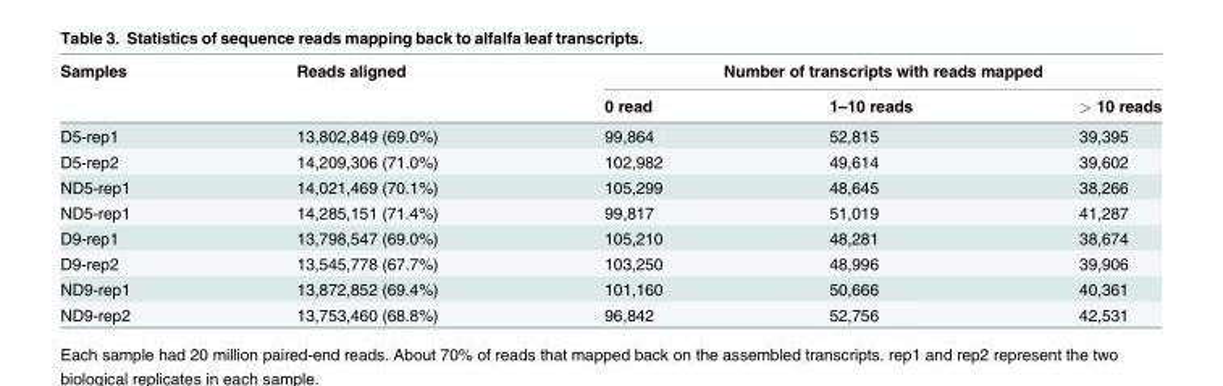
<table><thead><tr><td rowspan="2">Samples</td><td rowspan="2">Reads aligned</td><td colspan="3">Number of transcripts with reads mapped</td></tr><tr><td>0 read</td><td>1–10 reads</td><td>&gt; 10 reads</td></tr></thead><tbody><tr><td>D5-rep1</td><td>13,802,849 (69.0%)</td><td>99,864</td><td>52,815</td><td>39,395</td></tr><tr><td>D5-rep2</td><td>14,209,306 (71.0%)</td><td>102,982</td><td>49,614</td><td>39,602</td></tr><tr><td>ND5-rep1</td><td>14,021,469 (70.1%)</td><td>105,299</td><td>48,645</td><td>38,266</td></tr><tr><td>ND5-rep1</td><td>14,285,151 (71.4%)</td><td>99,817</td><td>51,019</td><td>41,287</td></tr><tr><td>D9-rep1</td><td>13,798,547 (69.0%)</td><td>105,210</td><td>48,281</td><td>38,674</td></tr><tr><td>D9-rep2</td><td>13,545,778 (67.7%)</td><td>103,250</td><td>48,996</td><td>39,906</td></tr><tr><td>ND9-rep1</td><td>13,872,852 (69.4%)</td><td>101,160</td><td>50,666</td><td>40,361</td></tr><tr><td>ND9-rep2</td><td>13,753,460 (68.8%)</td><td>96,842</td><td>52,756</td><td>42,531</td></tr></tbody></table>